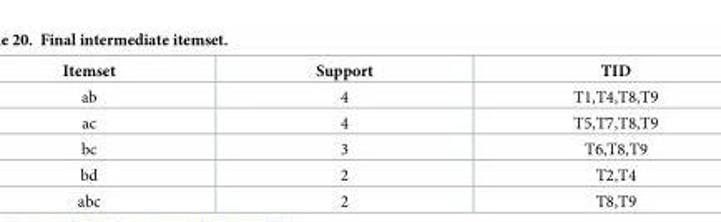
<table><thead><tr><td>Itemset</td><td>Support</td><td>TID</td></tr></thead><tbody><tr><td>ab</td><td>4</td><td>T1,T4,T8,T9</td></tr><tr><td>ac</td><td>4</td><td>T5,T7,T8,T9</td></tr><tr><td>bc</td><td>3</td><td>T6,T8,T9</td></tr></tbody></table>